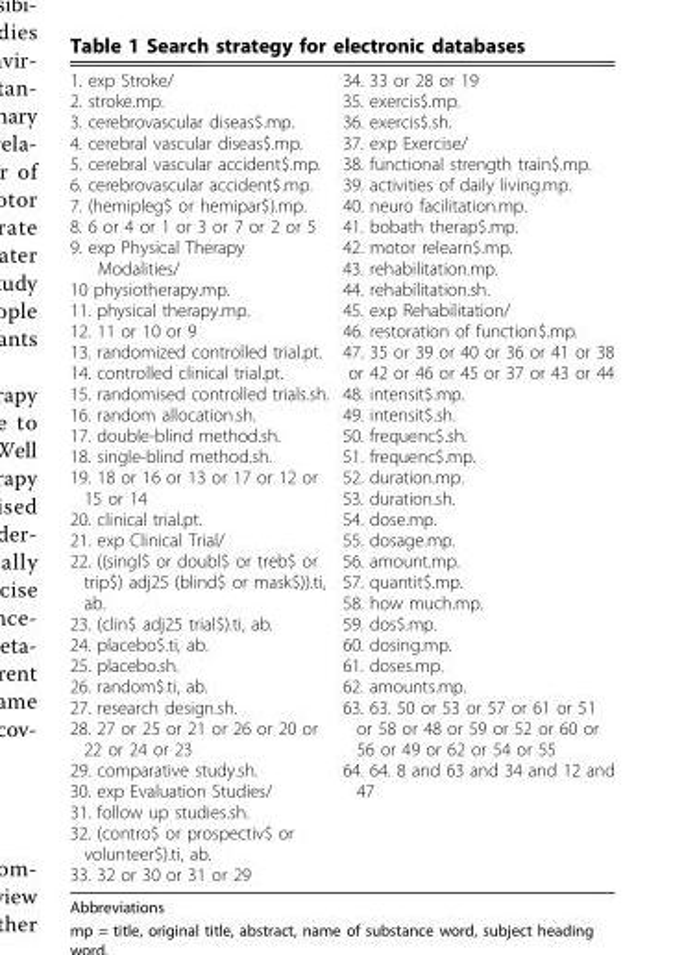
<table><tbody><tr><td>1. exp Stroke/ 2. stroke.mp. 3. cerebrovascular diseas$.mp. 4. cerebral vascular diseas$.mp. 5. cerebral vascular accident$.mp. 6. cerebrovascular accident$.mp. 7. (hemipleg$ or hemipar$).mp. 8. 6 or 4 or 1 or 3 or 7 or 2 or 5 9. exp Physical Therapy Modalities/ 10 physiotherapy.mp. 11. physical therapy.mp. 12. 11 or 10 or 9 13. randomized controlled trial.pt. 14. controlled clinical trial.pt. 15. randomised controlled trials.sh. 16. random allocation.sh. 17. double-blind method.sh. 18. single-blind method.sh. 19. 18 or 16 or 13 or 17 or 12 or 15 or 14 20. clinical trial.pt. 21. exp Clinical Trial/ 22. ((singl$ or doubl$ or treb$ or trip$) adj25 (blind$ or mask$)).ti, ab. 23. (clin$ adj25 trial$).ti, ab. 24. placebo$.ti, ab. 25. placebo.sh. 26. random$.ti, ab. 27. research design.sh. 28. 27 or 25 or 21 or 26 or 20 or 22 or 24 or 23 29. comparative study.sh. 30. exp Evaluation Studies/ 31. follow up studies.sh. 32. (contro$ or prospectiv$ or volunteer$).ti, ab. 33. 32 or 30 or 31 or 29</td><td>34. 33 or 28 or 19 35. exercis$.mp. 36. exercis$.sh. 37. exp Exercise/ 38. functional strength train$.mp. 39. activities of daily living.mp. 40. neuro facilitation.mp. 41. bobath therap$.mp. 42. motor relearn$.mp. 43. rehabilitation.mp. 44. rehabilitation.sh. 45. exp Rehabilitation/ 46. restoration of function$.mp. 47. 35 or 39 or 40 or 36 or 41 or 38 or 42 or 46 or 45 or 37 or 43 or 44 48. intensit$.mp. 49. intensit$.sh. 50. frequenc$.sh. 51. frequenc$.mp. 52. duration.mp. 53. duration.sh. 54. dose.mp. 55. dosage.mp. 56. amount.mp. 57. quantit$.mp. 58. how much.mp. 59. dos$.mp. 60. dosing.mp. 61. doses.mp. 62. amounts.mp. 63. 63. 50 or 53 or 57 or 61 or 51 or 58 or 48 or 59 or 52 or 60 or 56 or 49 or 62 or 54 or 55 64. 64. 8 and 63 and 34 and 12 and 47</td></tr></tbody></table>